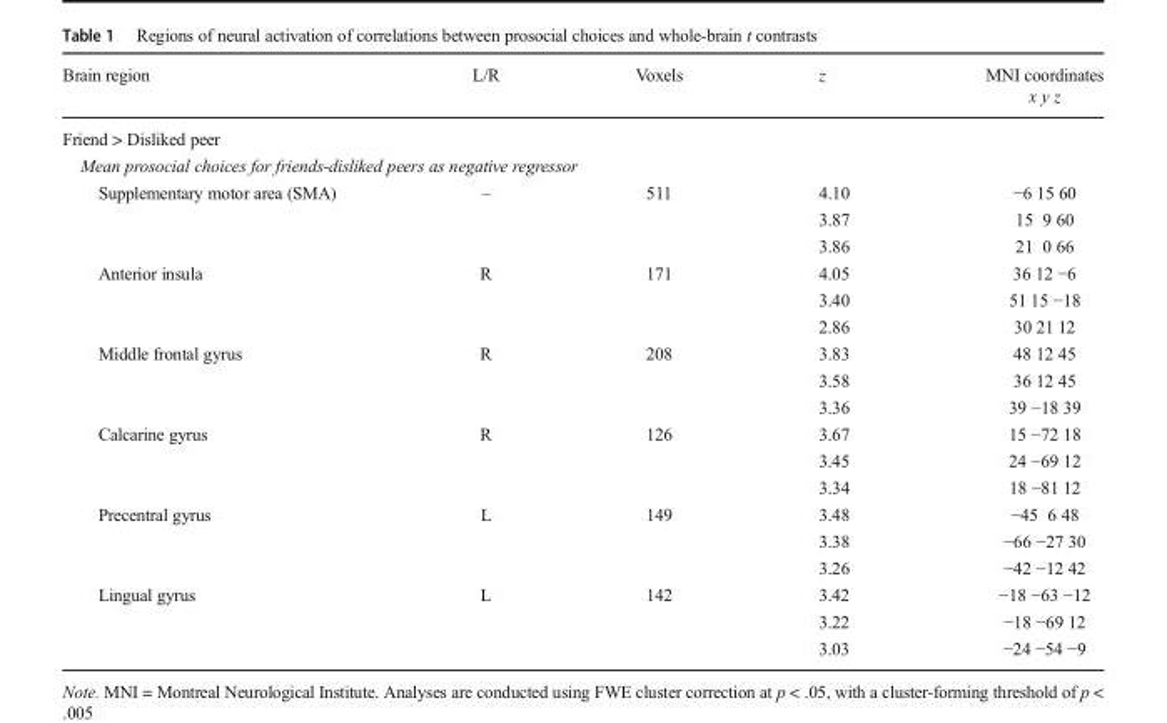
<table><thead><tr><td rowspan="2">Brain region</td><td rowspan="2">L/R</td><td rowspan="2">Voxels</td><td rowspan="2">z</td><td rowspan="2">MNI coordinates x y z</td></tr><tr></tr></thead><tbody><tr><td colspan="5">Friend &gt; Disliked peer</td></tr><tr><td colspan="5">Mean prosocial choices for friends-disliked peers as negative regressor</td></tr><tr><td rowspan="3">Supplementary motor area (SMA)</td><td>–</td><td>511</td><td>4.10</td><td>−6 15 60</td></tr><tr><td></td><td></td><td>3.87</td><td>15 9 60</td></tr><tr><td></td><td></td><td>3.86</td><td>21 0 66</td></tr><tr><td rowspan="3">Anterior insula</td><td>R</td><td>171</td><td>4.05</td><td>36 12 −6</td></tr><tr><td></td><td></td><td>3.40</td><td>51 15 −18</td></tr><tr><td></td><td></td><td>2.86</td><td>30 21 12</td></tr><tr><td rowspan="3">Middle frontal gyrus</td><td>R</td><td>208</td><td>3.83</td><td>48 12 45</td></tr><tr><td></td><td></td><td>3.58</td><td>36 12 45</td></tr><tr><td></td><td></td><td>3.36</td><td>39 −18 39</td></tr><tr><td rowspan="3">Calcarine gyrus</td><td>R</td><td>126</td><td>3.67</td><td>15 −72 18</td></tr><tr><td></td><td></td><td>3.45</td><td>24 −69 12</td></tr><tr><td></td><td></td><td>3.34</td><td>18 −81 12</td></tr><tr><td rowspan="3">Precentral gyrus</td><td>L</td><td>149</td><td>3.48</td><td>−45 6 48</td></tr><tr><td></td><td></td><td>3.38</td><td>−66 −27 30</td></tr><tr><td></td><td></td><td>3.26</td><td>−42 −12 42</td></tr><tr><td rowspan="3">Lingual gyrus</td><td>L</td><td>142</td><td>3.42</td><td>−18 −63 −12</td></tr><tr><td></td><td></td><td>3.22</td><td>−18 −69 12</td></tr><tr><td></td><td></td><td>3.03</td><td>−24 −54 −9</td></tr></tbody></table>